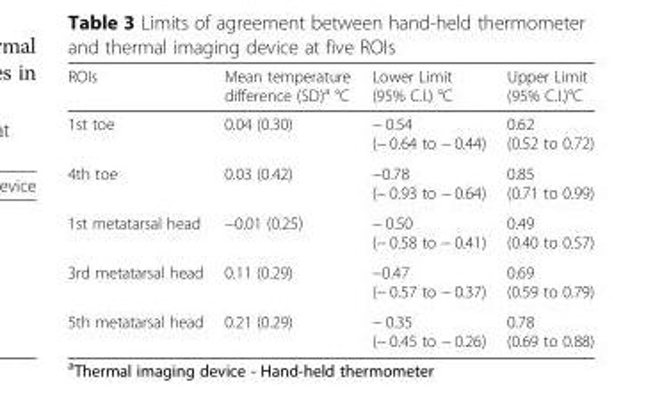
<table><thead><tr><td>ROIs</td><td>Mean temperature difference (SD)<sup>a</sup> °C</td><td>Lower Limit (95% C.I.) °C</td><td>Upper Limit (95% C.I.)°C</td></tr></thead><tbody><tr><td>1st toe</td><td>0.04 (0.30)</td><td>− 0.54 (− 0.64 to − 0.44)</td><td>0.62 (0.52 to 0.72)</td></tr><tr><td>4th toe</td><td>0.03 (0.42)</td><td>−0.78 (− 0.93 to − 0.64)</td><td>0.85 (0.71 to 0.99)</td></tr><tr><td>1st metatarsal head</td><td>−0.01 (0.25)</td><td>− 0.50 (− 0.58 to − 0.41)</td><td>0.49 (0.40 to 0.57)</td></tr><tr><td>3rd metatarsal head</td><td>0.11 (0.29)</td><td>−0.47 (− 0.57 to − 0.37)</td><td>0.69 (0.59 to 0.79)</td></tr><tr><td>5th metatarsal head</td><td>0.21 (0.29)</td><td>− 0.35 (− 0.45 to − 0.26)</td><td>0.78 (0.69 to 0.88)</td></tr></tbody></table>